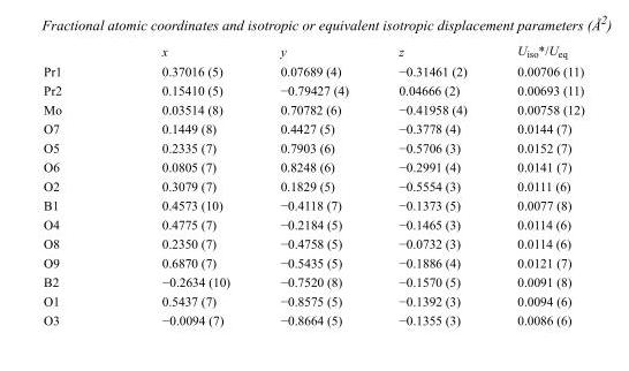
<table><thead><tr><td></td><td>x</td><td>y</td><td>z</td><td>U<sub>iso</sub>*/U<sub>eq</sub></td></tr></thead><tbody><tr><td>Pr1</td><td>0.37016 (5)</td><td>0.07689 (4)</td><td>−0.31461 (2)</td><td>0.00706 (11)</td></tr><tr><td>Pr2</td><td>0.15410 (5)</td><td>−0.79427 (4)</td><td>0.04666 (2)</td><td>0.00693 (11)</td></tr><tr><td>Mo</td><td>0.03514 (8)</td><td>0.70782 (6)</td><td>−0.41958 (4)</td><td>0.00758 (12)</td></tr><tr><td>O7</td><td>0.1449 (8)</td><td>0.4427 (5)</td><td>−0.3778 (4)</td><td>0.0144 (7)</td></tr><tr><td>O5</td><td>0.2335 (7)</td><td>0.7903 (6)</td><td>−0.5706 (3)</td><td>0.0152 (7)</td></tr><tr><td>O6</td><td>0.0805 (7)</td><td>0.8248 (6)</td><td>−0.2991 (4)</td><td>0.0141 (7)</td></tr><tr><td>O2</td><td>0.3079 (7)</td><td>0.1829 (5)</td><td>−0.5554 (3)</td><td>0.0111 (6)</td></tr><tr><td>B1</td><td>0.4573 (10)</td><td>−0.4118 (7)</td><td>−0.1373 (5)</td><td>0.0077 (8)</td></tr><tr><td>O4</td><td>0.4775 (7)</td><td>−0.2184 (5)</td><td>−0.1465 (3)</td><td>0.0114 (6)</td></tr><tr><td>O8</td><td>0.2350 (7)</td><td>−0.4758 (5)</td><td>−0.0732 (3)</td><td>0.0114 (6)</td></tr><tr><td>O9</td><td>0.6870 (7)</td><td>−0.5435 (5)</td><td>−0.1886 (4)</td><td>0.0121 (7)</td></tr><tr><td>B2</td><td>−0.2634 (10)</td><td>−0.7520 (8)</td><td>−0.1570 (5)</td><td>0.0091 (8)</td></tr><tr><td>O1</td><td>0.5437 (7)</td><td>−0.8575 (5)</td><td>−0.1392 (3)</td><td>0.0094 (6)</td></tr><tr><td>O3</td><td>−0.0094 (7)</td><td>−0.8664 (5)</td><td>−0.1355 (3)</td><td>0.0086 (6)</td></tr></tbody></table>